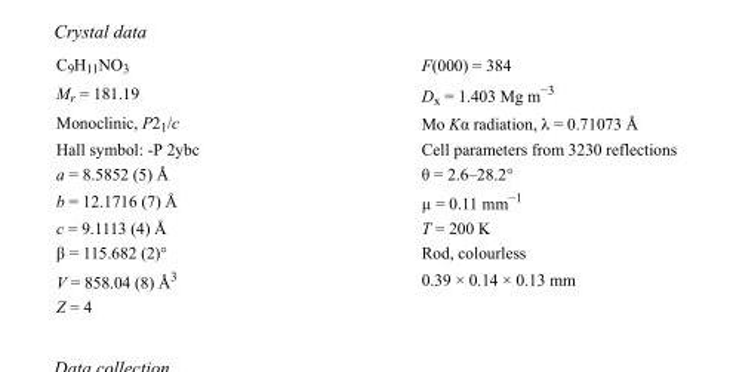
<table><tbody><tr><td>C<sub>9</sub>H<sub>11</sub>NO<sub>3</sub></td><td>F(000) = 384</td></tr><tr><td>M<sub>r</sub> = 181.19</td><td>D<sub>x</sub> = 1.403 Mg m<sup>−3</sup></td></tr><tr><td>Monoclinic, P2<sub>1</sub>/c</td><td>Mo Kα radiation, λ = 0.71073 Å</td></tr><tr><td>Hall symbol: -P 2ybc</td><td>Cell parameters from 3230 reflections</td></tr><tr><td>a = 8.5852 (5) Å</td><td>θ = 2.6–28.2°</td></tr><tr><td>b = 12.1716 (7) Å</td><td>µ = 0.11 mm<sup>−1</sup></td></tr><tr><td>c = 9.1113 (4) Å</td><td>T = 200 K</td></tr><tr><td>β = 115.682 (2)°</td><td>Rod, colourless</td></tr><tr><td>V = 858.04 (8) Å<sup>3</sup></td><td>0.39 × 0.14 × 0.13 mm</td></tr><tr><td>Z = 4</td><td></td></tr></tbody></table>